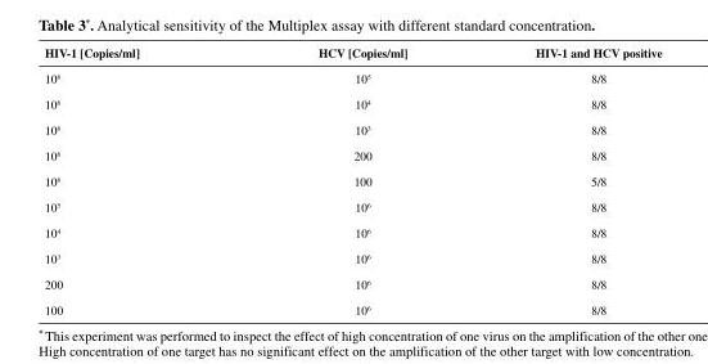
<table><thead><tr><td>HIV-1 [Copies/ml]</td><td>HCV [Copies/ml]</td><td>HIV-1 and HCV positive</td></tr></thead><tbody><tr><td>10<sup>6</sup></td><td>10<sup>5</sup></td><td>8/8</td></tr><tr><td>10<sup>6</sup></td><td>10<sup>4</sup></td><td>8/8</td></tr><tr><td>10<sup>6</sup></td><td>10<sup>3</sup></td><td>8/8</td></tr><tr><td>10<sup>6</sup></td><td>200</td><td>8/8</td></tr><tr><td>10<sup>6</sup></td><td>100</td><td>5/8</td></tr><tr><td>10<sup>5</sup></td><td>10<sup>6</sup></td><td>8/8</td></tr><tr><td>10<sup>4</sup></td><td>10<sup>6</sup></td><td>8/8</td></tr><tr><td>10<sup>3</sup></td><td>10<sup>6</sup></td><td>8/8</td></tr><tr><td>200</td><td>10<sup>6</sup></td><td>8/8</td></tr><tr><td>100</td><td>10<sup>6</sup></td><td>8/8</td></tr></tbody></table>